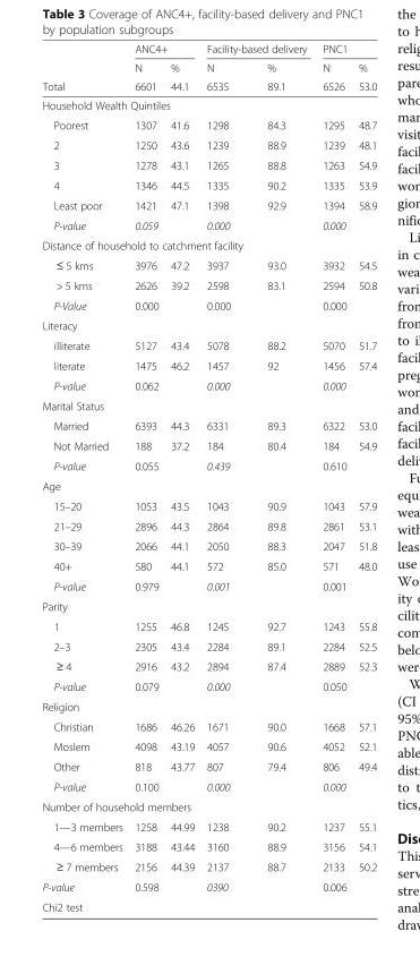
<table><thead><tr><td rowspan="3">Total</td><td colspan="2">ANC4+</td><td colspan="2">Facility-based delivery</td><td colspan="2">PNC1</td></tr><tr><td rowspan="2">N 6601</td><td rowspan="2">% 44.1</td><td rowspan="2">N 6535</td><td rowspan="2">% 89.1</td><td rowspan="2">N 6526</td><td rowspan="2">% 53.0</td></tr><tr></tr></thead><tbody><tr><td colspan="7">Household Wealth Quintiles</td></tr><tr><td>Poorest</td><td>1307</td><td>41.6</td><td>1298</td><td>84.3</td><td>1295</td><td>48.7</td></tr><tr><td>2</td><td>1250</td><td>43.6</td><td>1239</td><td>88.9</td><td>1239</td><td>48.1</td></tr><tr><td>3</td><td>1278</td><td>43.1</td><td>1265</td><td>88.8</td><td>1263</td><td>54.9</td></tr><tr><td>4</td><td>1346</td><td>44.5</td><td>1335</td><td>90.2</td><td>1335</td><td>53.9</td></tr><tr><td>Least poor</td><td>1421</td><td>47.1</td><td>1398</td><td>92.9</td><td>1394</td><td>58.9</td></tr><tr><td>P-value</td><td>0.059</td><td></td><td>0.000</td><td></td><td>0.000</td><td></td></tr><tr><td colspan="7">Distance of household to catchment facility</td></tr><tr><td>≤ 5 kms</td><td>3976</td><td>47.2</td><td>3937</td><td>93.0</td><td>3932</td><td>54.5</td></tr><tr><td>&gt; 5 kms</td><td>2626</td><td>39.2</td><td>2598</td><td>83.1</td><td>2594</td><td>50.8</td></tr><tr><td>P-Value</td><td>0.000</td><td></td><td>0.000</td><td></td><td>0.000</td><td></td></tr><tr><td colspan="7">Literacy</td></tr><tr><td>illiterate</td><td>5127</td><td>43.4</td><td>5078</td><td>88.2</td><td>5070</td><td>51.7</td></tr><tr><td>literate</td><td>1475</td><td>46.2</td><td>1457</td><td>92</td><td>1456</td><td>57.4</td></tr><tr><td>P-value</td><td>0.062</td><td></td><td>0.000</td><td></td><td>0.000</td><td></td></tr><tr><td colspan="7">Marital Status</td></tr><tr><td>Married</td><td>6393</td><td>44.3</td><td>6331</td><td>89.3</td><td>6322</td><td>53.0</td></tr><tr><td>Not Married</td><td>188</td><td>37.2</td><td>184</td><td>80.4</td><td>184</td><td>54.9</td></tr><tr><td>P-value</td><td>0.055</td><td></td><td>0.439</td><td></td><td>0.610</td><td></td></tr><tr><td colspan="7">Age</td></tr><tr><td>15–20</td><td>1053</td><td>43.5</td><td>1043</td><td>90.9</td><td>1043</td><td>57.9</td></tr><tr><td>21–29</td><td>2896</td><td>44.3</td><td>2864</td><td>89.8</td><td>2861</td><td>53.1</td></tr><tr><td>30–39</td><td>2066</td><td>44.1</td><td>2050</td><td>88.3</td><td>2047</td><td>51.8</td></tr><tr><td>40+</td><td>580</td><td>44.1</td><td>572</td><td>85.0</td><td>571</td><td>48.0</td></tr><tr><td>P-value</td><td>0.979</td><td></td><td>0.001</td><td></td><td>0.001</td><td></td></tr><tr><td colspan="7">Parity</td></tr><tr><td>1</td><td>1255</td><td>46.8</td><td>1245</td><td>92.7</td><td>1243</td><td>55.8</td></tr><tr><td>2–3</td><td>2305</td><td>43.4</td><td>2284</td><td>89.1</td><td>2284</td><td>52.5</td></tr><tr><td>≥ 4</td><td>2916</td><td>43.2</td><td>2894</td><td>87.4</td><td>2889</td><td>52.3</td></tr><tr><td>P-value</td><td>0.079</td><td></td><td>0.000</td><td></td><td>0.050</td><td></td></tr><tr><td colspan="7">Religion</td></tr><tr><td>Christian</td><td>1686</td><td>46.26</td><td>1671</td><td>90.0</td><td>1668</td><td>57.1</td></tr><tr><td>Moslem</td><td>4098</td><td>43.19</td><td>4057</td><td>90.6</td><td>4052</td><td>52.1</td></tr><tr><td>Other</td><td>818</td><td>43.77</td><td>807</td><td>79.4</td><td>806</td><td>49.4</td></tr><tr><td>P-value</td><td>0.100</td><td></td><td>0.000</td><td></td><td>0.000</td><td></td></tr><tr><td colspan="7">Number of household members</td></tr><tr><td>1—3 members</td><td>1258</td><td>44.99</td><td>1238</td><td>90.2</td><td>1237</td><td>55.1</td></tr><tr><td>4—6 members</td><td>3188</td><td>43.44</td><td>3160</td><td>88.9</td><td>3156</td><td>54.1</td></tr><tr><td>≥ 7 members</td><td>2156</td><td>44.39</td><td>2137</td><td>88.7</td><td>2133</td><td>50.2</td></tr><tr><td>P-value</td><td>0.598</td><td></td><td>0390</td><td></td><td>0.006</td><td></td></tr><tr><td>Chi2 test</td><td></td><td></td><td></td><td></td><td></td><td></td></tr></tbody></table>